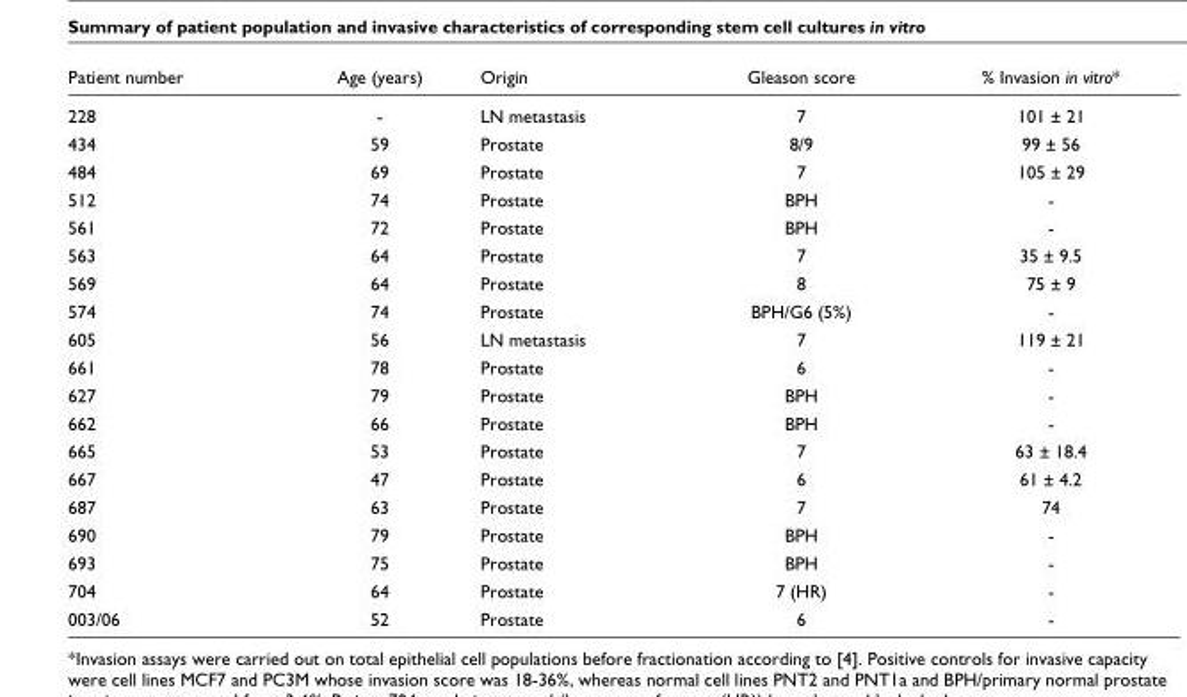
<table><thead><tr><td>Patient number</td><td>Age (years)</td><td>Origin</td><td>Gleason score</td><td>% Invasion in vitro*</td></tr></thead><tbody><tr><td>228</td><td>-</td><td>LN metastasis</td><td>7</td><td>101 ± 21</td></tr><tr><td>434</td><td>59</td><td>Prostate</td><td>8/9</td><td>99 ± 56</td></tr><tr><td>484</td><td>69</td><td>Prostate</td><td>7</td><td>105 ± 29</td></tr><tr><td>512</td><td>74</td><td>Prostate</td><td>BPH</td><td>-</td></tr><tr><td>561</td><td>72</td><td>Prostate</td><td>BPH</td><td>-</td></tr><tr><td>563</td><td>64</td><td>Prostate</td><td>7</td><td>35 ± 9.5</td></tr><tr><td>569</td><td>64</td><td>Prostate</td><td>8</td><td>75 ± 9</td></tr><tr><td>574</td><td>74</td><td>Prostate</td><td>BPH/G6 (5%)</td><td>-</td></tr><tr><td>605</td><td>56</td><td>LN metastasis</td><td>7</td><td>119 ± 21</td></tr><tr><td>661</td><td>78</td><td>Prostate</td><td>6</td><td>-</td></tr><tr><td>627</td><td>79</td><td>Prostate</td><td>BPH</td><td>-</td></tr><tr><td>662</td><td>66</td><td>Prostate</td><td>BPH</td><td>-</td></tr><tr><td>665</td><td>53</td><td>Prostate</td><td>7</td><td>63 ± 18.4</td></tr><tr><td>667</td><td>47</td><td>Prostate</td><td>6</td><td>61 ± 4.2</td></tr><tr><td>687</td><td>63</td><td>Prostate</td><td>7</td><td>74</td></tr><tr><td>690</td><td>79</td><td>Prostate</td><td>BPH</td><td>-</td></tr><tr><td>693</td><td>75</td><td>Prostate</td><td>BPH</td><td>-</td></tr><tr><td>704</td><td>64</td><td>Prostate</td><td>7 (HR)</td><td>-</td></tr><tr><td>003/06</td><td>52</td><td>Prostate</td><td>6</td><td>-</td></tr></tbody></table>